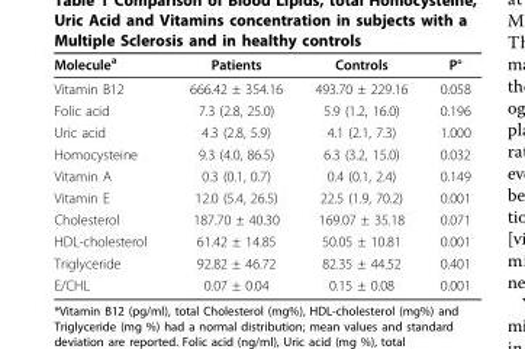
<table><thead><tr><td>Molecule<sup>a</sup></td><td>Patients</td><td>Controls</td><td>P°</td></tr></thead><tbody><tr><td>Vitamin B12</td><td>666.42 ± 354.16</td><td>493.70 ± 229.16</td><td>0.058</td></tr><tr><td>Folic acid</td><td>7.3 (2.8, 25.0)</td><td>5.9 (1.2, 16.0)</td><td>0.196</td></tr><tr><td>Uric acid</td><td>4.3 (2.8, 5.9)</td><td>4.1 (2.1, 7.3)</td><td>1.000</td></tr><tr><td>Homocysteine</td><td>9.3 (4.0, 86.5)</td><td>6.3 (3.2, 15.0)</td><td>0.032</td></tr><tr><td>Vitamin A</td><td>0.3 (0.1, 0.7)</td><td>0.4 (0.1, 2.4)</td><td>0.149</td></tr><tr><td>Vitamin E</td><td>12.0 (5.4, 26.5)</td><td>22.5 (1.9, 70.2)</td><td>0.001</td></tr><tr><td>Cholesterol</td><td>187.70 ± 40.30</td><td>169.07 ± 35.18</td><td>0.071</td></tr><tr><td>HDL-cholesterol</td><td>61.42 ± 14.85</td><td>50.05 ± 10.81</td><td>0.001</td></tr><tr><td>Triglyceride</td><td>92.82 ± 46.72</td><td>82.35 ± 44.52</td><td>0.401</td></tr><tr><td>E/CHL</td><td>0.07 ± 0.04</td><td>0.15 ± 0.08</td><td>0.001</td></tr></tbody></table>